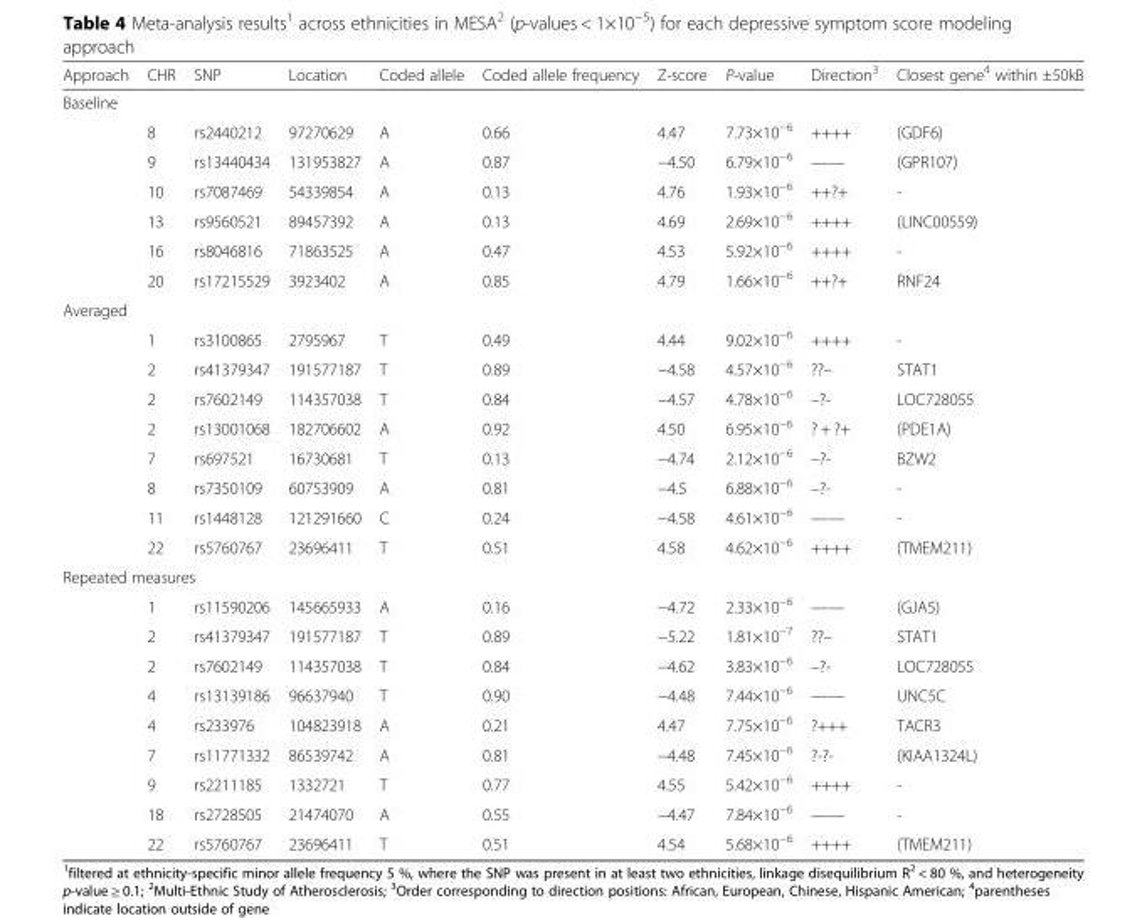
<table><thead><tr><td>Approach</td><td>CHR</td><td>SNP</td><td>Location</td><td>Coded allele</td><td>Coded allele frequency</td><td>Z-score</td><td>P-value</td><td>Direction<sup>3</sup></td><td>Closest gene<sup>4</sup> within ±50kB</td></tr></thead><tbody><tr><td colspan="10">Baseline</td></tr><tr><td></td><td>8</td><td>rs2440212</td><td>97270629</td><td>A</td><td>0.66</td><td>4.47</td><td>7.73×10<sup>−6</sup></td><td>++++</td><td>(GDF6)</td></tr><tr><td></td><td>9</td><td>rs13440434</td><td>131953827</td><td>A</td><td>0.87</td><td>−4.50</td><td>6.79×10<sup>−6</sup></td><td>——</td><td>(GPR107)</td></tr><tr><td></td><td>10</td><td>rs7087469</td><td>54339854</td><td>A</td><td>0.13</td><td>4.76</td><td>1.93×10<sup>−6</sup></td><td>++?+</td><td>-</td></tr><tr><td></td><td>13</td><td>rs9560521</td><td>89457392</td><td>A</td><td>0.13</td><td>4.69</td><td>2.69×10<sup>−6</sup></td><td>++++</td><td>(LINC00559)</td></tr><tr><td></td><td>16</td><td>rs8046816</td><td>71863525</td><td>A</td><td>0.47</td><td>4.53</td><td>5.92×10<sup>−6</sup></td><td>++++</td><td>-</td></tr><tr><td></td><td>20</td><td>rs17215529</td><td>3923402</td><td>A</td><td>0.85</td><td>4.79</td><td>1.66×10<sup>−6</sup></td><td>++?+</td><td>RNF24</td></tr><tr><td colspan="10">Averaged</td></tr><tr><td></td><td>1</td><td>rs3100865</td><td>2795967</td><td>T</td><td>0.49</td><td>4.44</td><td>9.02×10<sup>−6</sup></td><td>++++</td><td>-</td></tr><tr><td></td><td>2</td><td>rs41379347</td><td>191577187</td><td>T</td><td>0.89</td><td>−4.58</td><td>4.57×10<sup>−6</sup></td><td>??–</td><td>STAT1</td></tr><tr><td></td><td>2</td><td>rs7602149</td><td>114357038</td><td>T</td><td>0.84</td><td>−4.57</td><td>4.78×10<sup>−6</sup></td><td>–?-</td><td>LOC728055</td></tr><tr><td></td><td>2</td><td>rs13001068</td><td>182706602</td><td>A</td><td>0.92</td><td>4.50</td><td>6.95×10<sup>−6</sup></td><td>? + ?+</td><td>(PDE1A)</td></tr><tr><td></td><td>7</td><td>rs697521</td><td>16730681</td><td>T</td><td>0.13</td><td>−4.74</td><td>2.12×10<sup>−6</sup></td><td>–?-</td><td>BZW2</td></tr><tr><td></td><td>8</td><td>rs7350109</td><td>60753909</td><td>A</td><td>0.81</td><td>−4.5</td><td>6.88×10<sup>−6</sup></td><td>–?-</td><td>-</td></tr><tr><td></td><td>11</td><td>rs1448128</td><td>121291660</td><td>C</td><td>0.24</td><td>−4.58</td><td>4.61×10<sup>−6</sup></td><td>——</td><td>-</td></tr><tr><td></td><td>22</td><td>rs5760767</td><td>23696411</td><td>T</td><td>0.51</td><td>4.58</td><td>4.62×10<sup>−6</sup></td><td>++++</td><td>(TMEM211)</td></tr><tr><td colspan="10">Repeated measures</td></tr><tr><td></td><td>1</td><td>rs11590206</td><td>145665933</td><td>A</td><td>0.16</td><td>−4.72</td><td>2.33×10<sup>−6</sup></td><td>——</td><td>(GJA5)</td></tr><tr><td></td><td>2</td><td>rs41379347</td><td>191577187</td><td>T</td><td>0.89</td><td>−5.22</td><td>1.81×10<sup>−7</sup></td><td>??–</td><td>STAT1</td></tr><tr><td></td><td>2</td><td>rs7602149</td><td>114357038</td><td>T</td><td>0.84</td><td>−4.62</td><td>3.83×10<sup>−6</sup></td><td>–?-</td><td>LOC728055</td></tr><tr><td></td><td>4</td><td>rs13139186</td><td>96637940</td><td>T</td><td>0.90</td><td>−4.48</td><td>7.44×10<sup>−6</sup></td><td>——</td><td>UNC5C</td></tr><tr><td></td><td>4</td><td>rs233976</td><td>104823918</td><td>A</td><td>0.21</td><td>4.47</td><td>7.75×10<sup>−6</sup></td><td>?+++</td><td>TACR3</td></tr><tr><td></td><td>7</td><td>rs11771332</td><td>86539742</td><td>A</td><td>0.81</td><td>−4.48</td><td>7.45×10<sup>−6</sup></td><td>?-?-</td><td>(KIAA1324L)</td></tr><tr><td></td><td>9</td><td>rs2211185</td><td>1332721</td><td>T</td><td>0.77</td><td>4.55</td><td>5.42×10<sup>−6</sup></td><td>++++</td><td>-</td></tr><tr><td></td><td>18</td><td>rs2728505</td><td>21474070</td><td>A</td><td>0.55</td><td>−4.47</td><td>7.84×10<sup>−6</sup></td><td>——</td><td>-</td></tr><tr><td></td><td>22</td><td>rs5760767</td><td>23696411</td><td>T</td><td>0.51</td><td>4.54</td><td>5.68×10<sup>−6</sup></td><td>++++</td><td>(TMEM211)</td></tr></tbody></table>